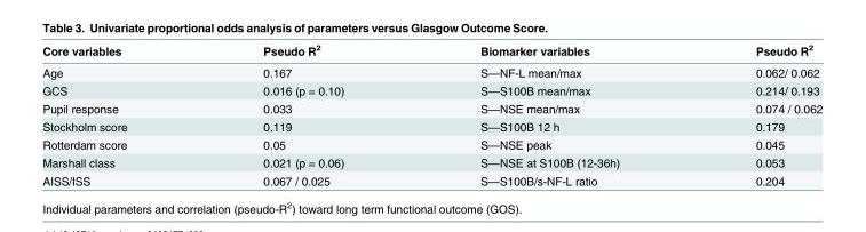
<table><thead><tr><td>Core variables</td><td>Pseudo R<sup>2</sup></td><td>Biomarker variables</td><td>Pseudo R<sup>2</sup></td></tr></thead><tbody><tr><td>Age</td><td>0.167</td><td>S—NF-L mean/max</td><td>0.062/ 0.062</td></tr><tr><td>GCS</td><td>0.016 (p = 0.10)</td><td>S—S100B mean/max</td><td>0.214/ 0.193</td></tr><tr><td>Pupil response</td><td>0.033</td><td>S—NSE mean/max</td><td>0.074 / 0.062</td></tr><tr><td>Stockholm score</td><td>0.119</td><td>S—S100B 12 h</td><td>0.179</td></tr><tr><td>Rotterdam score</td><td>0.05</td><td>S—NSE peak</td><td>0.045</td></tr><tr><td>Marshall class</td><td>0.021 (p = 0.06)</td><td>S—NSE at S100B (12-36h)</td><td>0.053</td></tr><tr><td>AISS/ISS</td><td>0.067 / 0.025</td><td>S—S100B/s-NF-L ratio</td><td>0.204</td></tr></tbody></table>